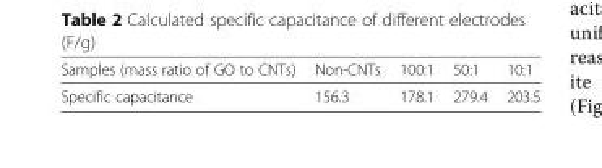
<table><thead><tr><td>Samples (mass ratio of GO to CNTs)</td><td>Non-CNTs</td><td>100:1</td><td>50:1</td><td>10:1</td></tr></thead><tbody><tr><td>Specific capacitance</td><td>156.3</td><td>178.1</td><td>279.4</td><td>203.5</td></tr></tbody></table>